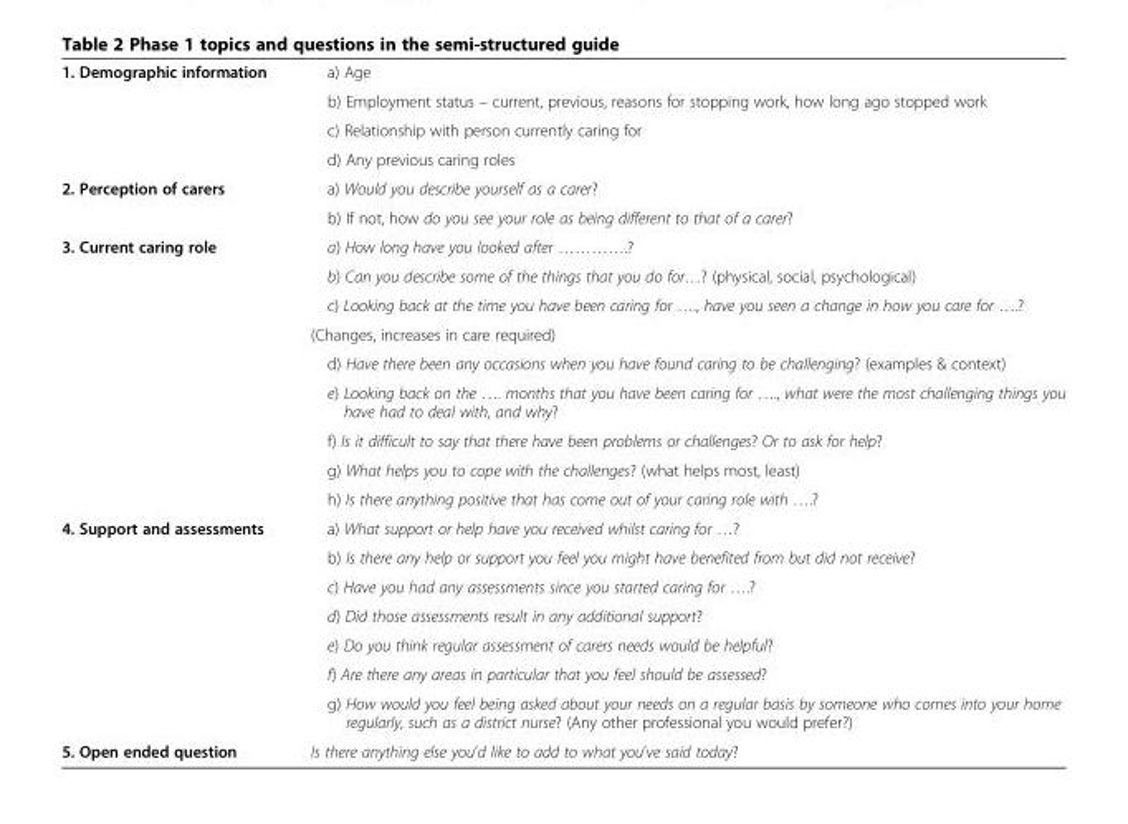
<table><tbody><tr><td rowspan="4">1. Demographic information</td><td>a) Age</td></tr><tr><td>b) Employment status – current, previous, reasons for stopping work, how long ago stopped work</td></tr><tr><td>c) Relationship with person currently caring for</td></tr><tr><td>d) Any previous caring roles</td></tr><tr><td rowspan="2">2. Perception of carers</td><td>a) Would you describe yourself as a carer?</td></tr><tr><td>b) If not, how do you see your role as being different to that of a carer?</td></tr><tr><td rowspan="9">3. Current caring role</td><td>a) How long have you looked after ………….?</td></tr><tr><td>b) Can you describe some of the things that you do for…? (physical, social, psychological)</td></tr><tr><td>c) Looking back at the time you have been caring for …., have you seen a change in how you care for ….?</td></tr><tr><td>(Changes, increases in care required)</td></tr><tr><td>d) Have there been any occasions when you have found caring to be challenging? (examples &amp; context)</td></tr><tr><td>e) Looking back on the …. months that you have been caring for …., what were the most challenging things you have had to deal with, and why?</td></tr><tr><td>f) Is it difficult to say that there have been problems or challenges? Or to ask for help?</td></tr><tr><td>g) What helps you to cope with the challenges? (what helps most, least)</td></tr><tr><td>h) Is there anything positive that has come out of your caring role with ….?</td></tr><tr><td rowspan="7">4. Support and assessments</td><td>a) What support or help have you received whilst caring for …?</td></tr><tr><td>b) Is there any help or support you feel you might have benefited from but did not receive?</td></tr><tr><td>c) Have you had any assessments since you started caring for ….?</td></tr><tr><td>d) Did those assessments result in any additional support?</td></tr><tr><td>e) Do you think regular assessment of carers needs would be helpful?</td></tr><tr><td>f) Are there any areas in particular that you feel should be assessed?</td></tr><tr><td>g) How would you feel being asked about your needs on a regular basis by someone who comes into your home regularly, such as a district nurse? (Any other professional you would prefer?)</td></tr><tr><td>5. Open ended question</td><td>Is there anything else you’d like to add to what you’ve said today?</td></tr></tbody></table>